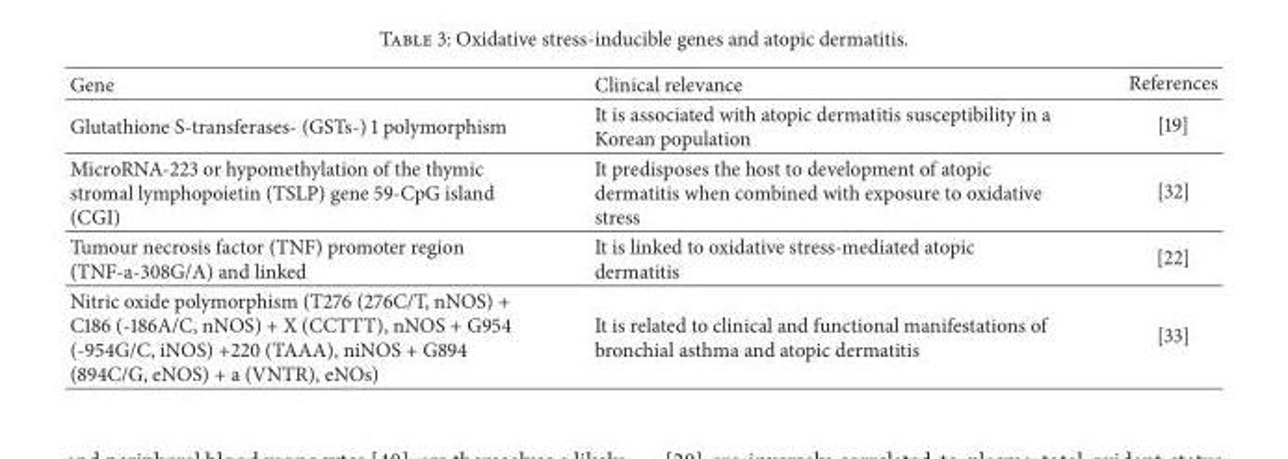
<table><thead><tr><td>Gene</td><td>Clinical relevance</td><td>References</td></tr></thead><tbody><tr><td>Glutathione S-transferases- (GSTs-) 1 polymorphism</td><td>It is associated with atopic dermatitis susceptibility in a Korean population</td><td>[19]</td></tr><tr><td>MicroRNA-223 or hypomethylation of the thymic stromal lymphopoietin (TSLP) gene 59-CpG island (CGI)</td><td>It predisposes the host to development of atopic dermatitis when combined with exposure to oxidative stress</td><td>[32]</td></tr><tr><td>Tumour necrosis factor (TNF) promoter region (TNF-a-308G/A) and linked</td><td>It is linked to oxidative stress-mediated atopic dermatitis</td><td>[22]</td></tr><tr><td>Nitric oxide polymorphism (T276 (276C/T, nNOS) + C186 (-186A/C, nNOS) + X (CCTTT), nNOS + G954 (-954G/C, iNOS) +220 (TAAA), niNOS + G894 (894C/G, eNOS) + a (VNTR), eNOs)</td><td>It is related to clinical and functional manifestations of bronchial asthma and atopic dermatitis</td><td>[33]</td></tr></tbody></table>